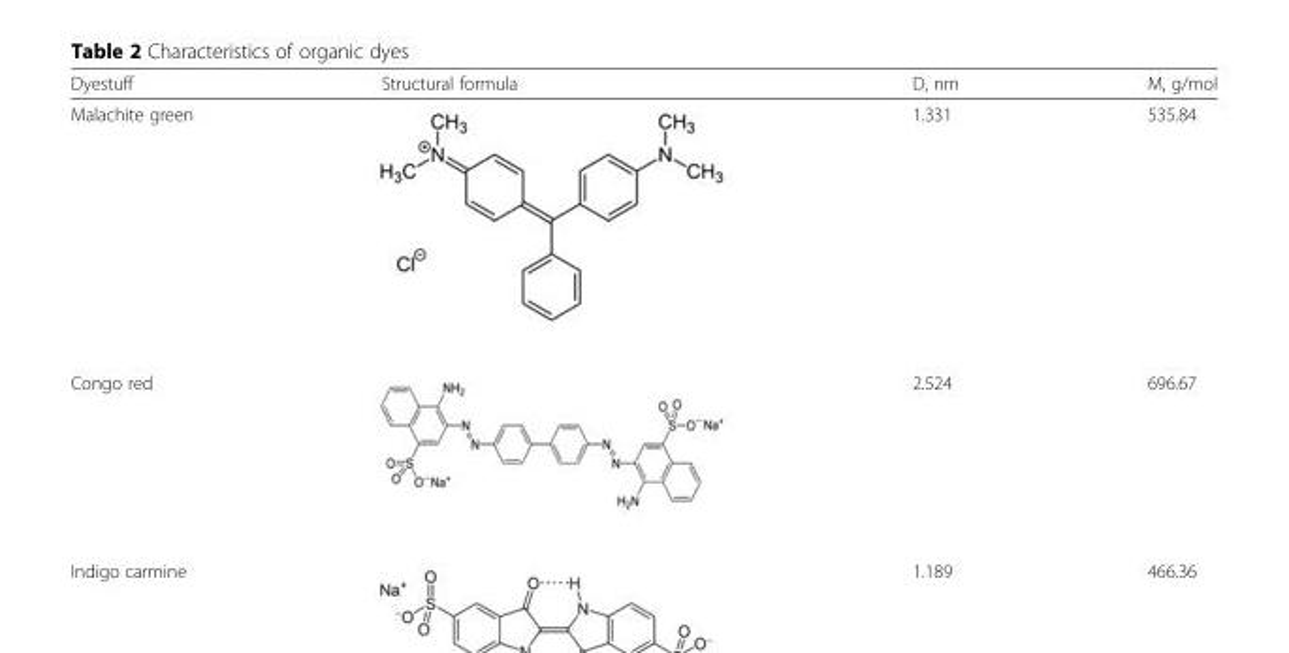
<table><thead><tr><td>Dyestuff</td><td>Structural formula</td><td>D, nm</td><td>М, g/mol</td></tr></thead><tbody><tr><td>Malachite green</td><td></td><td>1.331</td><td>535.84</td></tr><tr><td>Congo red</td><td></td><td>2.524</td><td>696.67</td></tr><tr><td>Indigo carmine</td><td></td><td>1.189</td><td>466.36</td></tr></tbody></table>